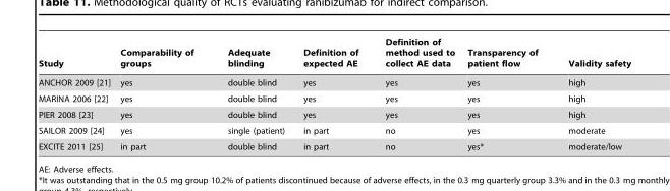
<table><thead><tr><td>Study</td><td>Comparability of groups</td><td>Adequate blinding</td><td>Definition of expected AE</td><td>Definition of method used to collect AE data</td><td>Transparency of patient flow</td><td>Validity safety</td></tr></thead><tbody><tr><td>ANCHOR 2009 [21]</td><td>yes</td><td>double blind</td><td>yes</td><td>yes</td><td>yes</td><td>high</td></tr><tr><td>MARINA 2006 [22]</td><td>yes</td><td>double blind</td><td>yes</td><td>yes</td><td>yes</td><td>high</td></tr><tr><td>PIER 2008 [23]</td><td>yes</td><td>double blind</td><td>yes</td><td>yes</td><td>yes</td><td>high</td></tr><tr><td>SAILOR 2009 [24]</td><td>yes</td><td>single (patient)</td><td>in part</td><td>no</td><td>yes</td><td>moderate</td></tr><tr><td>EXCITE 2011 [25]</td><td>in part</td><td>double blind</td><td>in part</td><td>no</td><td>yes*</td><td>moderate/low</td></tr></tbody></table>